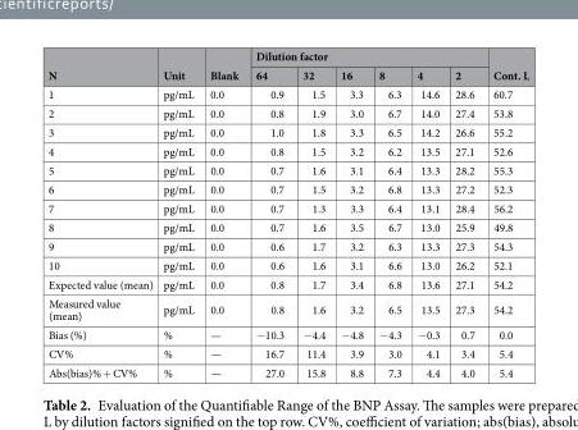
<table><thead><tr><td rowspan="2">N</td><td rowspan="2">Unit</td><td rowspan="2">Blank</td><td colspan="6">Dilution factor</td><td rowspan="2">Cont. L</td></tr><tr><td>64</td><td>32</td><td>16</td><td>8</td><td>4</td><td>2</td></tr></thead><tbody><tr><td>1</td><td>pg/mL</td><td>0.0</td><td>0.9</td><td>1.5</td><td>3.3</td><td>6.3</td><td>14.6</td><td>28.6</td><td>60.7</td></tr><tr><td>2</td><td>pg/mL</td><td>0.0</td><td>0.8</td><td>1.9</td><td>3.0</td><td>6.7</td><td>14.0</td><td>27.4</td><td>53.8</td></tr><tr><td>3</td><td>pg/mL</td><td>0.0</td><td>1.0</td><td>1.8</td><td>3.3</td><td>6.5</td><td>14.2</td><td>26.6</td><td>55.2</td></tr><tr><td>4</td><td>pg/mL</td><td>0.0</td><td>0.8</td><td>1.5</td><td>3.2</td><td>6.2</td><td>13.5</td><td>27.1</td><td>52.6</td></tr><tr><td>5</td><td>pg/mL</td><td>0.0</td><td>0.7</td><td>1.6</td><td>3.1</td><td>6.4</td><td>13.3</td><td>28.2</td><td>55.3</td></tr><tr><td>6</td><td>pg/mL</td><td>0.0</td><td>0.7</td><td>1.5</td><td>3.2</td><td>6.8</td><td>13.3</td><td>27.2</td><td>52.3</td></tr><tr><td>7</td><td>pg/mL</td><td>0.0</td><td>0.7</td><td>1.3</td><td>3.3</td><td>6.4</td><td>13.1</td><td>28.4</td><td>56.2</td></tr><tr><td>8</td><td>pg/mL</td><td>0.0</td><td>0.7</td><td>1.6</td><td>3.5</td><td>6.7</td><td>13.0</td><td>25.9</td><td>49.8</td></tr><tr><td>9</td><td>pg/mL</td><td>0.0</td><td>0.6</td><td>1.7</td><td>3.2</td><td>6.3</td><td>13.3</td><td>27.3</td><td>54.3</td></tr><tr><td>10</td><td>pg/mL</td><td>0.0</td><td>0.6</td><td>1.6</td><td>3.1</td><td>6.6</td><td>13.0</td><td>26.2</td><td>52.1</td></tr><tr><td>Expected value (mean)</td><td>pg/mL</td><td>0.0</td><td>0.8</td><td>1.7</td><td>3.4</td><td>6.8</td><td>13.6</td><td>27.1</td><td>54.2</td></tr><tr><td>Measured value (mean)</td><td>pg/mL</td><td>0.0</td><td>0.8</td><td>1.6</td><td>3.2</td><td>6.5</td><td>13.5</td><td>27.3</td><td>54.2</td></tr><tr><td>Bias (%)</td><td>%</td><td>—</td><td>−10.3</td><td>−4.4</td><td>−4.8</td><td>−4.3</td><td>−0.3</td><td>0.7</td><td>0.0</td></tr><tr><td>CV%</td><td>%</td><td>—</td><td>16.7</td><td>11.4</td><td>3.9</td><td>3.0</td><td>4.1</td><td>3.4</td><td>5.4</td></tr><tr><td>Abs(bias)% + CV%</td><td>%</td><td>—</td><td>27.0</td><td>15.8</td><td>8.8</td><td>7.3</td><td>4.4</td><td>4.0</td><td>5.4</td></tr></tbody></table>